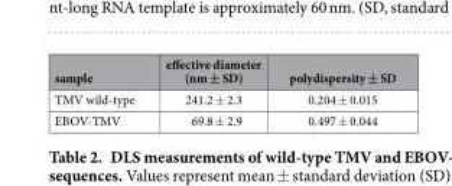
<table><thead><tr><td>sample</td><td>effective diameter (nm ± SD)</td><td>polydispersity ± SD</td></tr></thead><tbody><tr><td>TMV wild-type</td><td>241.2 ± 2.3</td><td>0.204 ± 0.015</td></tr><tr><td>EBOV-TMV</td><td>69.8 ± 2.9</td><td>0.497 ± 0.044</td></tr></tbody></table>